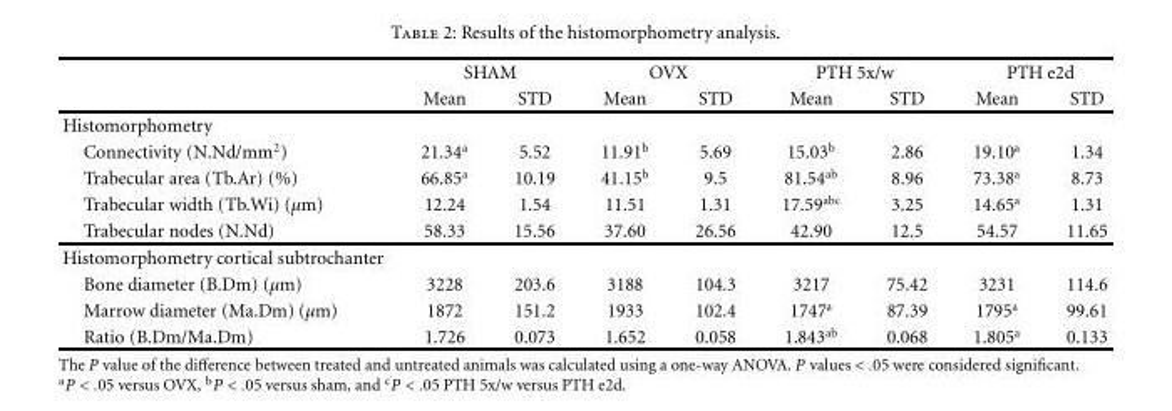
<table><thead><tr><td rowspan="2"></td><td colspan="2">SHAM</td><td colspan="2">OVX</td><td colspan="2">PTH 5x/w</td><td colspan="2">PTH e2d</td></tr><tr><td>Mean</td><td>STD</td><td>Mean</td><td>STD</td><td>Mean</td><td>STD</td><td>Mean</td><td>STD</td></tr></thead><tbody><tr><td colspan="9">Histomorphometry</td></tr><tr><td>Connectivity (N.Nd/mm<sup>2</sup>)</td><td>21.34<sup>a</sup></td><td>5.52</td><td>11.91<sup>b</sup></td><td>5.69</td><td>15.03<sup>b</sup></td><td>2.86</td><td>19.10<sup>a</sup></td><td>1.34</td></tr><tr><td>Trabecular area (Tb.Ar) (%)</td><td>66.85<sup>a</sup></td><td>10.19</td><td>41.15<sup>b</sup></td><td>9.5</td><td>81.54<sup>ab</sup></td><td>8.96</td><td>73.38<sup>a</sup></td><td>8.73</td></tr><tr><td>Trabecular width (Tb.Wi) (µm)</td><td>12.24</td><td>1.54</td><td>11.51</td><td>1.31</td><td>17.59<sup>abc</sup></td><td>3.25</td><td>14.65<sup>a</sup></td><td>1.31</td></tr><tr><td>Trabecular nodes (N.Nd)</td><td>58.33</td><td>15.56</td><td>37.60</td><td>26.56</td><td>42.90</td><td>12.5</td><td>54.57</td><td>11.65</td></tr><tr><td colspan="9">Histomorphometry cortical subtrochanter</td></tr><tr><td>Bone diameter (B.Dm) (µm)</td><td>3228</td><td>203.6</td><td>3188</td><td>104.3</td><td>3217</td><td>75.42</td><td>3231</td><td>114.6</td></tr><tr><td>Marrow diameter (Ma.Dm) (µm)</td><td>1872</td><td>151.2</td><td>1933</td><td>102.4</td><td>1747<sup>a</sup></td><td>87.39</td><td>1795<sup>a</sup></td><td>99.61</td></tr><tr><td>Ratio (B.Dm/Ma.Dm)</td><td>1.726</td><td>0.073</td><td>1.652</td><td>0.058</td><td>1.843<sup>ab</sup></td><td>0.068</td><td>1.805<sup>a</sup></td><td>0.133</td></tr></tbody></table>